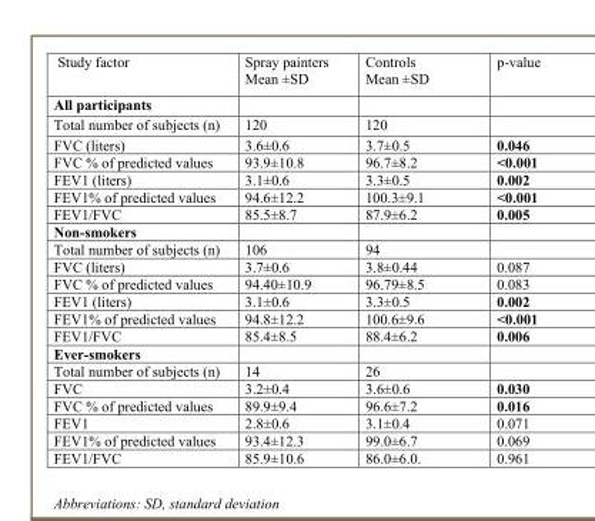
<table><thead><tr><td>Study factor</td><td>Spray painters Mean ±SD</td><td>Controls Mean ±SD</td><td>p-value</td></tr></thead><tbody><tr><td colspan="4">All participants</td></tr><tr><td>Total number of subjects (n)</td><td>120</td><td>120</td><td></td></tr><tr><td>FVC (liters)</td><td>3.6±0.6</td><td>3.7±0.5</td><td>0.046</td></tr><tr><td>FVC % of predicted values</td><td>93.9±10.8</td><td>96.7±8.2</td><td>&lt;0.001</td></tr><tr><td>FEV1 (liters)</td><td>3.1±0.6</td><td>3.3±0.5</td><td>0.002</td></tr><tr><td>FEV1% of predicted values</td><td>94.6±12.2</td><td>100.3±9.1</td><td>&lt;0.001</td></tr><tr><td>FEV1/FVC</td><td>85.5±8.7</td><td>87.9±6.2</td><td>0.005</td></tr><tr><td colspan="4">Non-smokers</td></tr><tr><td>Total number of subjects (n)</td><td>106</td><td>94</td><td></td></tr><tr><td>FVC (liters)</td><td>3.7±0.6</td><td>3.8±0.44</td><td>0.087</td></tr><tr><td>FVC % of predicted values</td><td>94.40±10.9</td><td>96.79±8.5</td><td>0.083</td></tr><tr><td>FEV1 (liters)</td><td>3.1±0.6</td><td>3.3±0.5</td><td>0.002</td></tr><tr><td>FEV1% of predicted values</td><td>94.8±12.2</td><td>100.6±9.6</td><td>&lt;0.001</td></tr><tr><td>FEV1/FVC</td><td>85.4±8.5</td><td>88.4±6.2</td><td>0.006</td></tr><tr><td colspan="4">Ever-smokers</td></tr><tr><td>Total number of subjects (n)</td><td>14</td><td>26</td><td></td></tr><tr><td>FVC</td><td>3.2±0.4</td><td>3.6±0.6</td><td>0.030</td></tr><tr><td>FVC % of predicted values</td><td>89.9±9.4</td><td>96.6±7.2</td><td>0.016</td></tr><tr><td>FEV1</td><td>2.8±0.6</td><td>3.1±0.4</td><td>0.071</td></tr><tr><td>FEV1% of predicted values</td><td>93.4±12.3</td><td>99.0±6.7</td><td>0.069</td></tr><tr><td>FEV1/FVC</td><td>85.9±10.6</td><td>86.0±6.0.</td><td>0.961</td></tr></tbody></table>